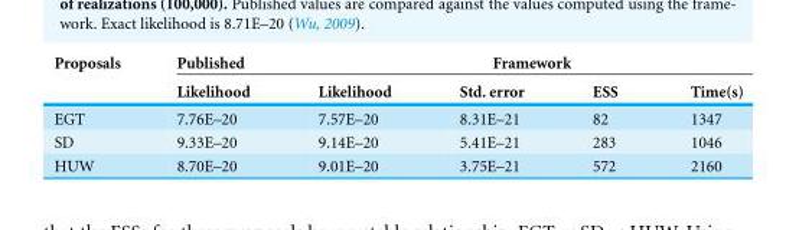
<table><thead><tr><td rowspan="2">Proposals</td><td rowspan="2">Published Likelihood</td><td colspan="4">Framework</td></tr><tr><td>Likelihood</td><td>Std. error</td><td>ESS</td><td>Time(s)</td></tr></thead><tbody><tr><td>EGT</td><td>7.76E–20</td><td>7.57E–20</td><td>8.31E–21</td><td>82</td><td>1347</td></tr><tr><td>SD</td><td>9.33E–20</td><td>9.14E–20</td><td>5.41E–21</td><td>283</td><td>1046</td></tr><tr><td>HUW</td><td>8.70E–20</td><td>9.01E–20</td><td>3.75E–21</td><td>572</td><td>2160</td></tr></tbody></table>